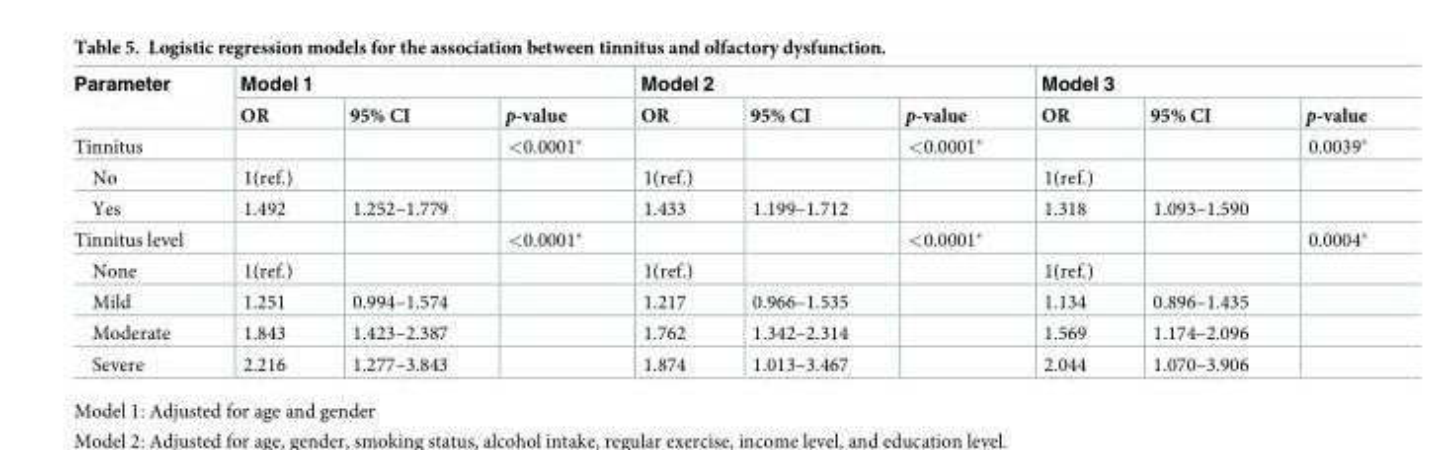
<table><thead><tr><td rowspan="2">Parameter</td><td colspan="3">Model 1</td><td colspan="3">Model 2</td><td colspan="3">Model 3</td></tr><tr><td>OR</td><td>95% CI</td><td>p-value</td><td>OR</td><td>95% CI</td><td>p-value</td><td>OR</td><td>95% CI</td><td>p-value</td></tr></thead><tbody><tr><td>Tinnitus</td><td></td><td></td><td>&lt;0.0001*</td><td></td><td></td><td>&lt;0.0001*</td><td></td><td></td><td>0.0039*</td></tr><tr><td>No</td><td>1(ref.)</td><td></td><td></td><td>1(ref.)</td><td></td><td></td><td>1(ref.)</td><td></td><td></td></tr><tr><td>Yes</td><td>1.492</td><td>1.252–1.779</td><td></td><td>1.433</td><td>1.199–1.712</td><td></td><td>1.318</td><td>1.093–1.590</td><td></td></tr><tr><td>Tinnitus level</td><td></td><td></td><td>&lt;0.0001*</td><td></td><td></td><td>&lt;0.0001*</td><td></td><td></td><td>0.0004*</td></tr><tr><td>None</td><td>1(ref.)</td><td></td><td></td><td>1(ref.)</td><td></td><td></td><td>1(ref.)</td><td></td><td></td></tr><tr><td>Mild</td><td>1.251</td><td>0.994–1.574</td><td></td><td>1.217</td><td>0.966–1.535</td><td></td><td>1.134</td><td>0.896–1.435</td><td></td></tr><tr><td>Moderate</td><td>1.843</td><td>1.423–2.387</td><td></td><td>1.762</td><td>1.342–2.314</td><td></td><td>1.569</td><td>1.174–2.096</td><td></td></tr><tr><td>Severe</td><td>2.216</td><td>1.277–3.843</td><td></td><td>1.874</td><td>1.013–3.467</td><td></td><td>2.044</td><td>1.070–3.906</td><td></td></tr></tbody></table>